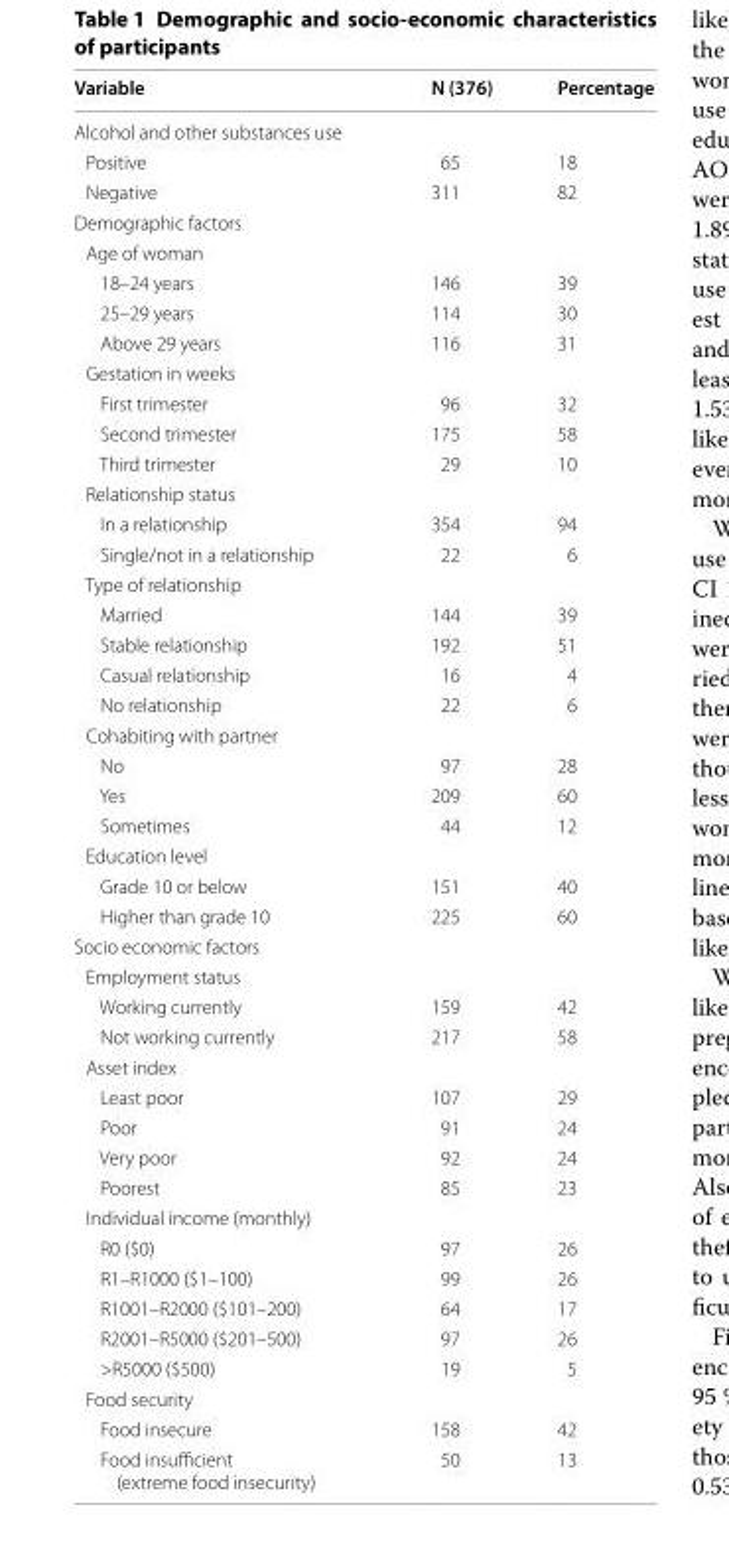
<table><thead><tr><td>Variable</td><td>N (376)</td><td>Percentage</td></tr></thead><tbody><tr><td colspan="3">Alcohol and other substances use</td></tr><tr><td>Positive</td><td>65</td><td>18</td></tr><tr><td>Negative</td><td>311</td><td>82</td></tr><tr><td colspan="3">Demographic factors</td></tr><tr><td colspan="3">Age of woman</td></tr><tr><td>18–24 years</td><td>146</td><td>39</td></tr><tr><td>25–29 years</td><td>114</td><td>30</td></tr><tr><td>Above 29 years</td><td>116</td><td>31</td></tr><tr><td colspan="3">Gestation in weeks</td></tr><tr><td>First trimester</td><td>96</td><td>32</td></tr><tr><td>Second trimester</td><td>175</td><td>58</td></tr><tr><td>Third trimester</td><td>29</td><td>10</td></tr><tr><td colspan="3">Relationship status</td></tr><tr><td>In a relationship</td><td>354</td><td>94</td></tr><tr><td>Single/not in a relationship</td><td>22</td><td>6</td></tr><tr><td colspan="3">Type of relationship</td></tr><tr><td>Married</td><td>144</td><td>39</td></tr><tr><td>Stable relationship</td><td>192</td><td>51</td></tr><tr><td>Casual relationship</td><td>16</td><td>4</td></tr><tr><td>No relationship</td><td>22</td><td>6</td></tr><tr><td colspan="3">Cohabiting with partner</td></tr><tr><td>No</td><td>97</td><td>28</td></tr><tr><td>Yes</td><td>209</td><td>60</td></tr><tr><td>Sometimes</td><td>44</td><td>12</td></tr><tr><td colspan="3">Education level</td></tr><tr><td>Grade 10 or below</td><td>151</td><td>40</td></tr><tr><td>Higher than grade 10</td><td>225</td><td>60</td></tr><tr><td colspan="3">Socio economic factors</td></tr><tr><td colspan="3">Employment status</td></tr><tr><td>Working currently</td><td>159</td><td>42</td></tr><tr><td>Not working currently</td><td>217</td><td>58</td></tr><tr><td colspan="3">Asset index</td></tr><tr><td>Least poor</td><td>107</td><td>29</td></tr><tr><td>Poor</td><td>91</td><td>24</td></tr><tr><td>Very poor</td><td>92</td><td>24</td></tr><tr><td>Poorest</td><td>85</td><td>23</td></tr><tr><td colspan="3">Individual income (monthly)</td></tr><tr><td>R0 ($0)</td><td>97</td><td>26</td></tr><tr><td>R1–R1000 ($1–100)</td><td>99</td><td>26</td></tr><tr><td>R1001–R2000 ($101–200)</td><td>64</td><td>17</td></tr><tr><td>R2001–R5000 ($201–500)</td><td>97</td><td>26</td></tr><tr><td>&gt;R5000 ($500)</td><td>19</td><td>5</td></tr><tr><td colspan="3">Food security</td></tr><tr><td>Food insecure</td><td>158</td><td>42</td></tr><tr><td>Food insufficient (extreme food insecurity)</td><td>50</td><td>13</td></tr></tbody></table>